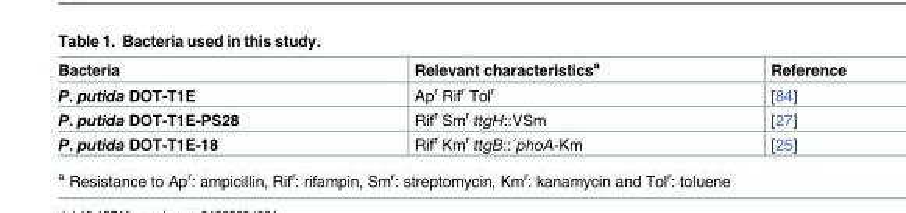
<table><thead><tr><td>Bacteria</td><td>Relevant characteristics<sup>a</sup></td><td>Reference</td></tr></thead><tbody><tr><td>P. putida DOT-T1E</td><td>Ap<sup>r</sup> Rif<sup>r</sup> Tol<sup>r</sup></td><td>[84]</td></tr><tr><td>P. putida DOT-T1E-PS28</td><td>Rif<sup>r</sup> Sm<sup>r</sup> ttgH::VSm</td><td>[27]</td></tr><tr><td>P. putida DOT-T1E-18</td><td>Rif<sup>r</sup> Km<sup>r</sup> ttgB::´phoA-Km</td><td>[25]</td></tr></tbody></table>